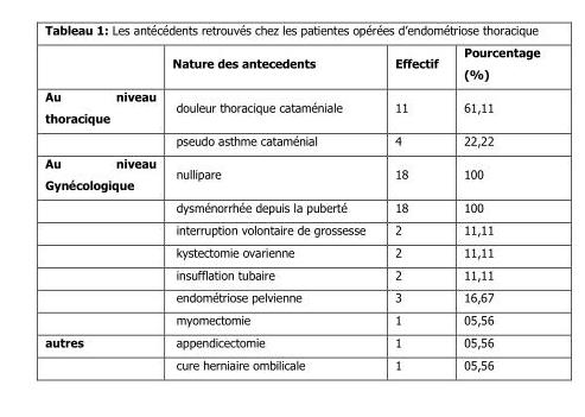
<table><thead><tr><td></td><td>Nature des antecedents</td><td>Effectif</td><td>Pourcentage (%)</td></tr></thead><tbody><tr><td rowspan="2">Au niveau thoracique</td><td>douleur thoracique cataméniale</td><td>11</td><td>61,11</td></tr><tr><td>pseudo asthme cataménial</td><td>4</td><td>22,22</td></tr><tr><td rowspan="7">Au niveau Gynécologique</td><td>nullipare</td><td>18</td><td>100</td></tr><tr><td>dysménorrhée depuis la puberté</td><td>18</td><td>100</td></tr><tr><td>interruption volontaire de grossesse</td><td>2</td><td>11,11</td></tr><tr><td>kystectomie ovarienne</td><td>2</td><td>11,11</td></tr><tr><td>insufflation tubaire</td><td>2</td><td>11,11</td></tr><tr><td>endométriose pelvienne</td><td>3</td><td>16,67</td></tr><tr><td>myomectomie</td><td>1</td><td>05,56</td></tr><tr><td rowspan="2">autres</td><td>appendicectomie</td><td>1</td><td>05,56</td></tr><tr><td>cure herniaire ombilicale</td><td>1</td><td>05,56</td></tr></tbody></table>